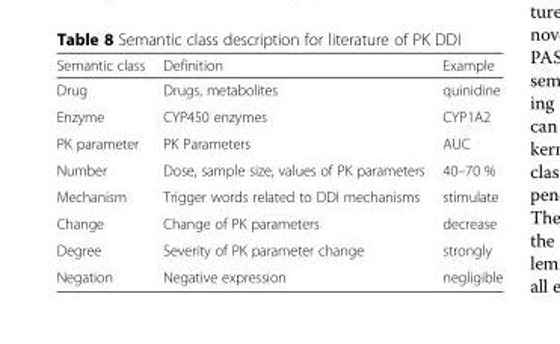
<table><thead><tr><td>Semantic class</td><td>Definition</td><td>Example</td></tr></thead><tbody><tr><td>Drug</td><td>Drugs, metabolites</td><td>quinidine</td></tr><tr><td>Enzyme</td><td>CYP450 enzymes</td><td>CYP1A2</td></tr><tr><td>PK parameter</td><td>PK Parameters</td><td>AUC</td></tr><tr><td>Number</td><td>Dose, sample size, values of PK parameters</td><td>40–70 %</td></tr><tr><td>Mechanism</td><td>Trigger words related to DDI mechanisms</td><td>stimulate</td></tr><tr><td>Change</td><td>Change of PK parameters</td><td>decrease</td></tr><tr><td>Degree</td><td>Severity of PK parameter change</td><td>strongly</td></tr><tr><td>Negation</td><td>Negative expression</td><td>negligible</td></tr></tbody></table>